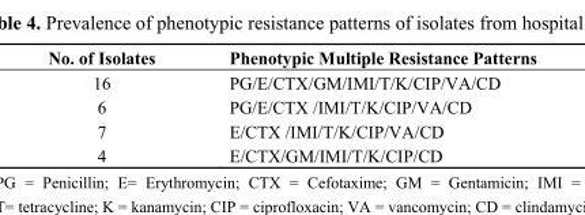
<table><thead><tr><td>No. of Isolates</td><td>Phenotypic Multiple Resistance Patterns</td></tr></thead><tbody><tr><td>16</td><td>PG/E/CTX/GM/IMI/T/K/CIP/VA/CD</td></tr><tr><td>6</td><td>PG/E/CTX /IMI/T/K/CIP/VA/CD</td></tr><tr><td>7</td><td>E/CTX /IMI/T/K/CIP/VA/CD</td></tr><tr><td>4</td><td>E/CTX/GM/IMI/T/K/CIP/CD</td></tr></tbody></table>